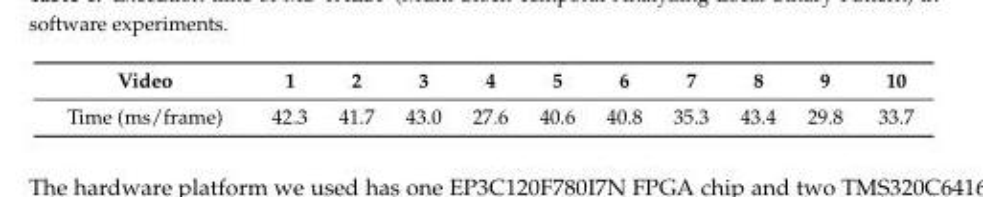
<table><thead><tr><td>Video</td><td>1</td><td>2</td><td>3</td><td>4</td><td>5</td><td>6</td><td>7</td><td>8</td><td>9</td><td>10</td></tr></thead><tbody><tr><td>Time (ms/frame)</td><td>42.3</td><td>41.7</td><td>43.0</td><td>27.6</td><td>40.6</td><td>40.8</td><td>35.3</td><td>43.4</td><td>29.8</td><td>33.7</td></tr></tbody></table>